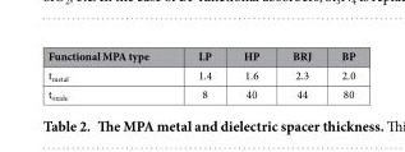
<table><thead><tr><td>Functional MPA type</td><td>LP</td><td>HP</td><td>BRJ</td><td>BP</td></tr></thead><tbody><tr><td>t<sub>metal</sub></td><td>1.4</td><td>1.6</td><td>2.3</td><td>2.0</td></tr><tr><td>t<sub>oxide</sub></td><td>8</td><td>40</td><td>44</td><td>80</td></tr></tbody></table>